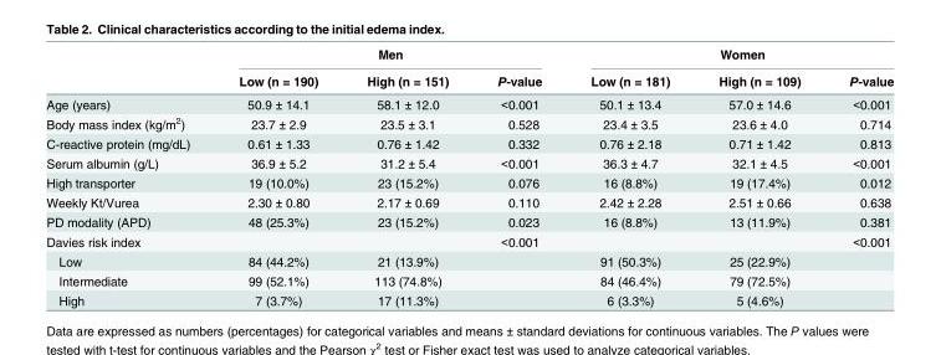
<table><thead><tr><td rowspan="2"></td><td colspan="3">Men</td><td colspan="3">Women</td></tr><tr><td>Low (n = 190)</td><td>High (n = 151)</td><td>P-value</td><td>Low (n = 181)</td><td>High (n = 109)</td><td>P-value</td></tr></thead><tbody><tr><td>Age (years)</td><td>50.9 ± 14.1</td><td>58.1 ± 12.0</td><td>&lt;0.001</td><td>50.1 ± 13.4</td><td>57.0 ± 14.6</td><td>&lt;0.001</td></tr><tr><td>Body mass index (kg/m<sup>2</sup>)</td><td>23.7 ± 2.9</td><td>23.5 ± 3.1</td><td>0.528</td><td>23.4 ± 3.5</td><td>23.6 ± 4.0</td><td>0.714</td></tr><tr><td>C-reactive protein (mg/dL)</td><td>0.61 ± 1.33</td><td>0.76 ± 1.42</td><td>0.332</td><td>0.76 ± 2.18</td><td>0.71 ± 1.42</td><td>0.813</td></tr><tr><td>Serum albumin (g/L)</td><td>36.9 ± 5.2</td><td>31.2 ± 5.4</td><td>&lt;0.001</td><td>36.3 ± 4.7</td><td>32.1 ± 4.5</td><td>&lt;0.001</td></tr><tr><td>High transporter</td><td>19 (10.0%)</td><td>23 (15.2%)</td><td>0.076</td><td>16 (8.8%)</td><td>19 (17.4%)</td><td>0.012</td></tr><tr><td>Weekly Kt/Vurea</td><td>2.30 ± 0.80</td><td>2.17 ± 0.69</td><td>0.110</td><td>2.42 ± 2.28</td><td>2.51 ± 0.66</td><td>0.638</td></tr><tr><td>PD modality (APD)</td><td>48 (25.3%)</td><td>23 (15.2%)</td><td>0.023</td><td>16 (8.8%)</td><td>13 (11.9%)</td><td>0.381</td></tr><tr><td>Davies risk index</td><td></td><td></td><td>&lt;0.001</td><td></td><td></td><td>&lt;0.001</td></tr><tr><td>Low</td><td>84 (44.2%)</td><td>21 (13.9%)</td><td></td><td>91 (50.3%)</td><td>25 (22.9%)</td><td></td></tr><tr><td>Intermediate</td><td>99 (52.1%)</td><td>113 (74.8%)</td><td></td><td>84 (46.4%)</td><td>79 (72.5%)</td><td></td></tr><tr><td>High</td><td>7 (3.7%)</td><td>17 (11.3%)</td><td></td><td>6 (3.3%)</td><td>5 (4.6%)</td><td></td></tr></tbody></table>